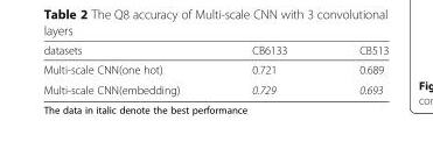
<table><thead><tr><td>datasets</td><td>CB6133</td><td>CB513</td></tr></thead><tbody><tr><td>Multi-scale CNN(one hot)</td><td>0.721</td><td>0.689</td></tr><tr><td>Multi-scale CNN(embedding)</td><td>0.729</td><td>0.693</td></tr></tbody></table>